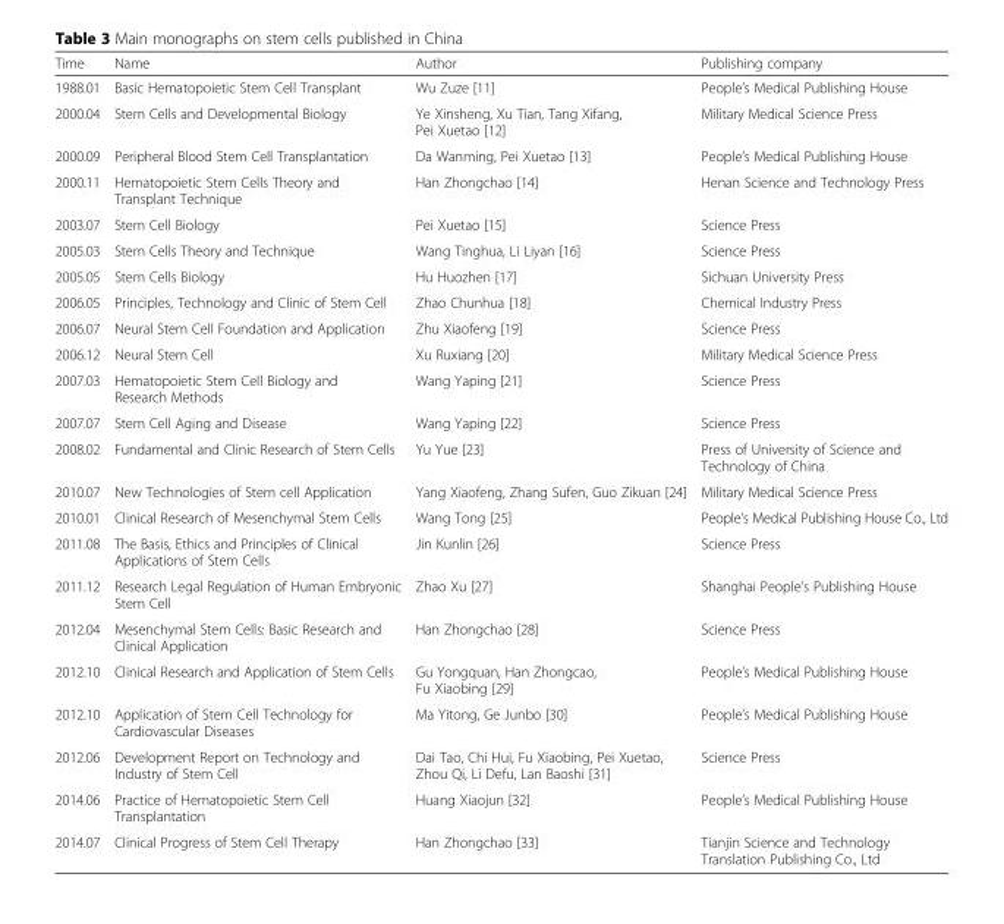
<table><thead><tr><td>Time</td><td>Name</td><td>Author</td><td>Publishing company</td></tr></thead><tbody><tr><td>1988.01</td><td>Basic Hematopoietic Stem Cell Transplant</td><td>Wu Zuze [11]</td><td>People’s Medical Publishing House</td></tr><tr><td>2000.04</td><td>Stem Cells and Developmental Biology</td><td>Ye Xinsheng, Xu Tian, Tang Xifang, Pei Xuetao [12]</td><td>Military Medical Science Press</td></tr><tr><td>2000.09</td><td>Peripheral Blood Stem Cell Transplantation</td><td>Da Wanming, Pei Xuetao [13]</td><td>People’s Medical Publishing House</td></tr><tr><td>2000.11</td><td>Hematopoietic Stem Cells Theory and Transplant Technique</td><td>Han Zhongchao [14]</td><td>Henan Science and Technology Press</td></tr><tr><td>2003.07</td><td>Stem Cell Biology</td><td>Pei Xuetao [15]</td><td>Science Press</td></tr><tr><td>2005.03</td><td>Stem Cells Theory and Technique</td><td>Wang Tinghua, Li Liyan [16]</td><td>Science Press</td></tr><tr><td>2005.05</td><td>Stem Cells Biology</td><td>Hu Huozhen [17]</td><td>Sichuan University Press</td></tr><tr><td>2006.05</td><td>Principles, Technology and Clinic of Stem Cell</td><td>Zhao Chunhua [18]</td><td>Chemical Industry Press</td></tr><tr><td>2006.07</td><td>Neural Stem Cell Foundation and Application</td><td>Zhu Xiaofeng [19]</td><td>Science Press</td></tr><tr><td>2006.12</td><td>Neural Stem Cell</td><td>Xu Ruxiang [20]</td><td>Military Medical Science Press</td></tr><tr><td>2007.03</td><td>Hematopoietic Stem Cell Biology and Research Methods</td><td>Wang Yaping [21]</td><td>Science Press</td></tr><tr><td>2007.07</td><td>Stem Cell Aging and Disease</td><td>Wang Yaping [22]</td><td>Science Press</td></tr><tr><td>2008.02</td><td>Fundamental and Clinic Research of Stem Cells</td><td>Yu Yue [23]</td><td>Press of University of Science and Technology of China</td></tr><tr><td>2010.07</td><td>New Technologies of Stem cell Application</td><td>Yang Xiaofeng, Zhang Sufen, Guo Zikuan [24]</td><td>Military Medical Science Press</td></tr><tr><td>2010.01</td><td>Clinical Research of Mesenchymal Stem Cells</td><td>Wang Tong [25]</td><td>People’s Medical Publishing House Co., Ltd</td></tr><tr><td>2011.08</td><td>The Basis, Ethics and Principles of Clinical Applications of Stem Cells</td><td>Jin Kunlin [26]</td><td>Science Press</td></tr><tr><td>2011.12</td><td>Research Legal Regulation of Human Embryonic Stem Cell</td><td>Zhao Xu [27]</td><td>Shanghai People’s Publishing House</td></tr><tr><td>2012.04</td><td>Mesenchymal Stem Cells: Basic Research and Clinical Application</td><td>Han Zhongchao [28]</td><td>Science Press</td></tr><tr><td>2012.10</td><td>Clinical Research and Application of Stem Cells</td><td>Gu Yongquan, Han Zhongcao, Fu Xiaobing [29]</td><td>People’s Medical Publishing House</td></tr><tr><td>2012.10</td><td>Application of Stem Cell Technology for Cardiovascular Diseases</td><td>Ma Yitong, Ge Junbo [30]</td><td>People’s Medical Publishing House</td></tr><tr><td>2012.06</td><td>Development Report on Technology and Industry of Stem Cell</td><td>Dai Tao, Chi Hui, Fu Xiaobing, Pei Xuetao, Zhou Qi, Li Defu, Lan Baoshi [31]</td><td>Science Press</td></tr><tr><td>2014.06</td><td>Practice of Hematopoietic Stem Cell Transplantation</td><td>Huang Xiaojun [32]</td><td>People’s Medical Publishing House</td></tr><tr><td>2014.07</td><td>Clinical Progress of Stem Cell Therapy</td><td>Han Zhongchao [33]</td><td>Tianjin Science and Technology Translation Publishing Co., Ltd</td></tr></tbody></table>